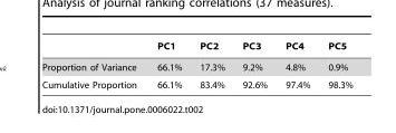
<table><thead><tr><td></td><td>PC1</td><td>PC2</td><td>PC3</td><td>PC4</td><td>PC5</td></tr></thead><tbody><tr><td>Proportion of Variance</td><td>66.1%</td><td>17.3%</td><td>9.2%</td><td>4.8%</td><td>0.9%</td></tr><tr><td>Cumulative Proportion</td><td>66.1%</td><td>83.4%</td><td>92.6%</td><td>97.4%</td><td>98.3%</td></tr></tbody></table>